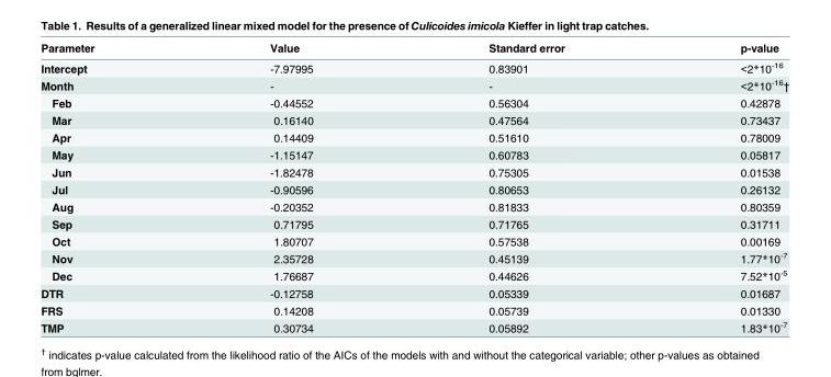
<table><thead><tr><td>Parameter</td><td>Value</td><td>Standard error</td><td>p-value</td></tr></thead><tbody><tr><td>Intercept</td><td>-7.97995</td><td>0.83901</td><td>&lt;2*10<sup>-16</sup></td></tr><tr><td>Month</td><td>-</td><td>-</td><td>&lt;2*10<sup>-16</sup>†</td></tr><tr><td>Feb</td><td>-0.44552</td><td>0.56304</td><td>0.42878</td></tr><tr><td>Mar</td><td>0.16140</td><td>0.47564</td><td>0.73437</td></tr><tr><td>Apr</td><td>0.14409</td><td>0.51610</td><td>0.78009</td></tr><tr><td>May</td><td>-1.15147</td><td>0.60783</td><td>0.05817</td></tr><tr><td>Jun</td><td>-1.82478</td><td>0.75305</td><td>0.01538</td></tr><tr><td>Jul</td><td>-0.90596</td><td>0.80653</td><td>0.26132</td></tr><tr><td>Aug</td><td>-0.20352</td><td>0.81833</td><td>0.80359</td></tr><tr><td>Sep</td><td>0.71795</td><td>0.71765</td><td>0.31711</td></tr><tr><td>Oct</td><td>1.80707</td><td>0.57538</td><td>0.00169</td></tr><tr><td>Nov</td><td>2.35728</td><td>0.45139</td><td>1.77*10<sup>-7</sup></td></tr><tr><td>Dec</td><td>1.76687</td><td>0.44626</td><td>7.52*10<sup>-5</sup></td></tr><tr><td>DTR</td><td>-0.12758</td><td>0.05339</td><td>0.01687</td></tr><tr><td>FRS</td><td>0.14208</td><td>0.05739</td><td>0.01330</td></tr><tr><td>TMP</td><td>0.30734</td><td>0.05892</td><td>1.83*10<sup>-7</sup></td></tr></tbody></table>